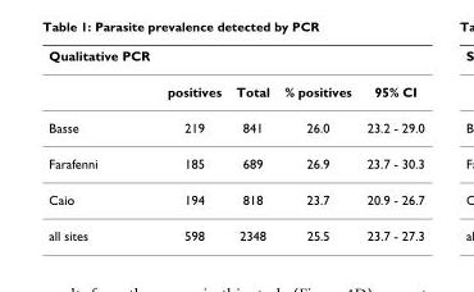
<table><thead><tr><td>Qualitative PCR</td><td></td><td></td><td></td><td></td></tr></thead><tbody><tr><td></td><td>positives</td><td>Total</td><td>% positives</td><td>95% CI</td></tr><tr><td>Basse</td><td>219</td><td>841</td><td>26.0</td><td>23.2 - 29.0</td></tr><tr><td>Farafenni</td><td>185</td><td>689</td><td>26.9</td><td>23.7 - 30.3</td></tr><tr><td>Caio</td><td>194</td><td>818</td><td>23.7</td><td>20.9 - 26.7</td></tr><tr><td>all sites</td><td>598</td><td>2348</td><td>25.5</td><td>23.7 - 27.3</td></tr></tbody></table>